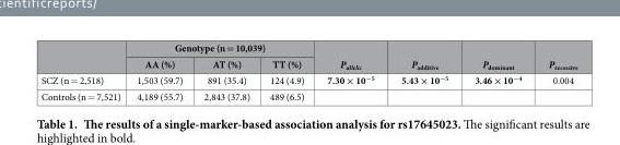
<table><thead><tr><td rowspan="2"></td><td colspan="3">Genotype (n = 10,039)</td><td rowspan="2">P<sub>allelic</sub></td><td rowspan="2">P<sub>additive</sub></td><td rowspan="2">P<sub>dominant</sub></td><td rowspan="2">P<sub>recessive</sub></td></tr><tr><td>AA (%)</td><td>AT (%)</td><td>TT (%)</td></tr></thead><tbody><tr><td>SCZ (n = 2,518)</td><td>1,503 (59.7)</td><td>891 (35.4)</td><td>124 (4.9)</td><td>7.30 × 10<sup>−5</sup></td><td>5.43 × 10<sup>−5</sup></td><td>3.46 × 10<sup>−4</sup></td><td>0.004</td></tr><tr><td>Controls (n = 7,521)</td><td>4,189 (55.7)</td><td>2,843 (37.8)</td><td>489 (6.5)</td><td></td><td></td><td></td><td></td></tr></tbody></table>